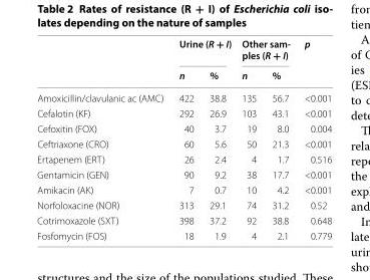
<table><thead><tr><td rowspan="2"></td><td colspan="2">Urine (R + I)</td><td colspan="2">Other sam- ples (R + I)</td><td rowspan="2">p</td></tr><tr><td>n</td><td>%</td><td>n</td><td>%</td></tr></thead><tbody><tr><td>Amoxicillin/clavulanic ac (AMC)</td><td>422</td><td>38.8</td><td>135</td><td>56.7</td><td>&lt;0.001</td></tr><tr><td>Cefalotin (KF)</td><td>292</td><td>26.9</td><td>103</td><td>43.1</td><td>&lt;0.001</td></tr><tr><td>Cefoxitin (FOX)</td><td>40</td><td>3.7</td><td>19</td><td>8.0</td><td>0.004</td></tr><tr><td>Ceftriaxone (CRO)</td><td>60</td><td>5.6</td><td>50</td><td>21.3</td><td>&lt;0.001</td></tr><tr><td>Ertapenem (ERT)</td><td>26</td><td>2.4</td><td>4</td><td>1.7</td><td>0.516</td></tr><tr><td>Gentamicin (GEN)</td><td>90</td><td>9.2</td><td>38</td><td>17.7</td><td>&lt;0.001</td></tr><tr><td>Amikacin (AK)</td><td>7</td><td>0.7</td><td>10</td><td>4.2</td><td>&lt;0.001</td></tr><tr><td>Norfoloxacine (NOR)</td><td>313</td><td>29.1</td><td>74</td><td>31.2</td><td>0.52</td></tr><tr><td>Cotrimoxazole (SXT)</td><td>398</td><td>37.2</td><td>92</td><td>38.8</td><td>0.648</td></tr><tr><td>Fosfomycin (FOS)</td><td>18</td><td>1.9</td><td>4</td><td>2.1</td><td>0.779</td></tr></tbody></table>